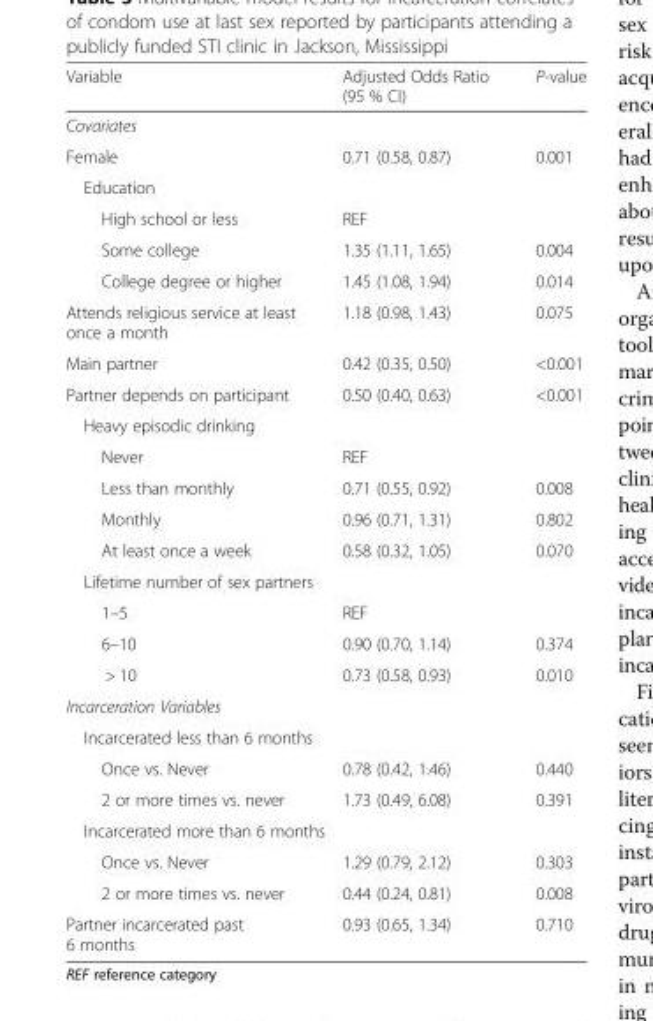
<table><thead><tr><td>Variable</td><td>Adjusted Odds Ratio (95 % CI)</td><td>P-value</td></tr></thead><tbody><tr><td colspan="3">Covariates</td></tr><tr><td>Female</td><td>0.71 (0.58, 0.87)</td><td>0.001</td></tr><tr><td colspan="3">Education</td></tr><tr><td>High school or less</td><td>REF</td><td></td></tr><tr><td>Some college</td><td>1.35 (1.11, 1.65)</td><td>0.004</td></tr><tr><td>College degree or higher</td><td>1.45 (1.08, 1.94)</td><td>0.014</td></tr><tr><td>Attends religious service at least once a month</td><td>1.18 (0.98, 1.43)</td><td>0.075</td></tr><tr><td>Main partner</td><td>0.42 (0.35, 0.50)</td><td>&lt;0.001</td></tr><tr><td>Partner depends on participant</td><td>0.50 (0.40, 0.63)</td><td>&lt;0.001</td></tr><tr><td colspan="3">Heavy episodic drinking</td></tr><tr><td>Never</td><td>REF</td><td></td></tr><tr><td>Less than monthly</td><td>0.71 (0.55, 0.92)</td><td>0.008</td></tr><tr><td>Monthly</td><td>0.96 (0.71, 1.31)</td><td>0.802</td></tr><tr><td>At least once a week</td><td>0.58 (0.32, 1.05)</td><td>0.070</td></tr><tr><td colspan="3">Lifetime number of sex partners</td></tr><tr><td>1–5</td><td>REF</td><td></td></tr><tr><td>6–10</td><td>0.90 (0.70, 1.14)</td><td>0.374</td></tr><tr><td>&gt; 10</td><td>0.73 (0.58, 0.93)</td><td>0.010</td></tr><tr><td colspan="3">Incarceration Variables</td></tr><tr><td colspan="3">Incarcerated less than 6 months</td></tr><tr><td>Once vs. Never</td><td>0.78 (0.42, 1.46)</td><td>0.440</td></tr><tr><td>2 or more times vs. never</td><td>1.73 (0.49, 6.08)</td><td>0.391</td></tr><tr><td colspan="3">Incarcerated more than 6 months</td></tr><tr><td>Once vs. Never</td><td>1.29 (0.79, 2.12)</td><td>0.303</td></tr><tr><td>2 or more times vs. never</td><td>0.44 (0.24, 0.81)</td><td>0.008</td></tr><tr><td>Partner incarcerated past 6 months</td><td>0.93 (0.65, 1.34)</td><td>0.710</td></tr></tbody></table>